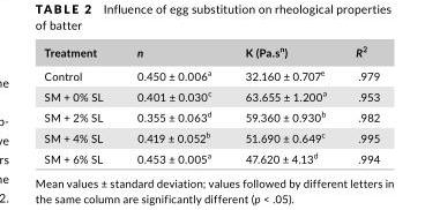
<table><thead><tr><td>Treatment</td><td>n</td><td>K (Pa.s<sup>n</sup>)</td><td>R<sup>2</sup></td></tr></thead><tbody><tr><td>Control</td><td>0.450 ± 0.006<sup>a</sup></td><td>32.160 ± 0.707<sup>e</sup></td><td>.979</td></tr><tr><td>SM + 0% SL</td><td>0.401 ± 0.030<sup>c</sup></td><td>63.655 ± 1.200<sup>a</sup></td><td>.953</td></tr><tr><td>SM + 2% SL</td><td>0.355 ± 0.063<sup>d</sup></td><td>59.360 ± 0.930<sup>b</sup></td><td>.982</td></tr><tr><td>SM + 4% SL</td><td>0.419 ± 0.052<sup>b</sup></td><td>51.690 ± 0.649<sup>c</sup></td><td>.995</td></tr><tr><td>SM + 6% SL</td><td>0.453 ± 0.005<sup>a</sup></td><td>47.620 ± 4.13<sup>d</sup></td><td>.994</td></tr></tbody></table>